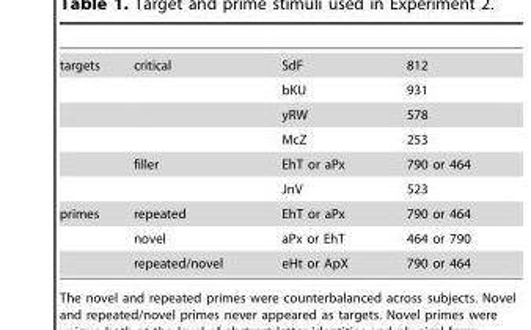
<table><tbody><tr><td rowspan="6">targets</td><td>critical</td><td>SdF</td><td>812</td></tr><tr><td></td><td>bKU</td><td>931</td></tr><tr><td></td><td>yRW</td><td>578</td></tr><tr><td></td><td>McZ</td><td>253</td></tr><tr><td>filler</td><td>EhT or aPx</td><td>790 or 464</td></tr><tr><td></td><td>JnV</td><td>523</td></tr><tr><td rowspan="3">primes</td><td>repeated</td><td>EhT or aPx</td><td>790 or 464</td></tr><tr><td>novel</td><td>aPx or EhT</td><td>464 or 790</td></tr><tr><td>repeated/novel</td><td>eHt or ApX</td><td>790 or 464</td></tr></tbody></table>